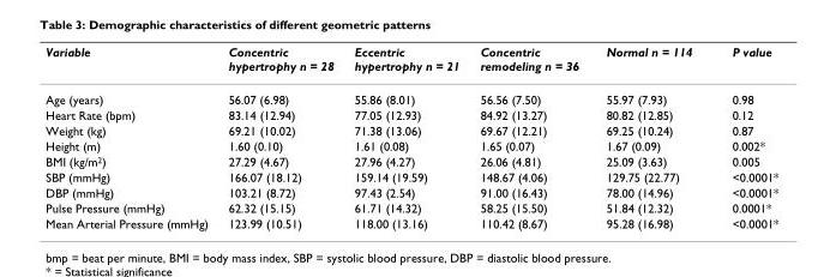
<table><thead><tr><td>Variable</td><td>Concentric hypertrophy n = 28</td><td>Eccentric hypertrophy n = 21</td><td>Concentric remodeling n = 36</td><td>Normal n = 114</td><td>P value</td></tr></thead><tbody><tr><td>Age (years)</td><td>56.07 (6.98)</td><td>55.86 (8.01)</td><td>56.56 (7.50)</td><td>55.97 (7.93)</td><td>0.98</td></tr><tr><td>Heart Rate (bpm)</td><td>83.14 (12.94)</td><td>77.05 (12.93)</td><td>84.92 (13.27)</td><td>80.82 (12.85)</td><td>0.12</td></tr><tr><td>Weight (kg)</td><td>69.21 (10.02)</td><td>71.38 (13.06)</td><td>69.67 (12.21)</td><td>69.25 (10.24)</td><td>0.87</td></tr><tr><td>Height (m)</td><td>1.60 (0.10)</td><td>1.61 (0.08)</td><td>1.65 (0.07)</td><td>1.67 (0.09)</td><td>0.002*</td></tr><tr><td>BMI (kg/m<sup>2</sup>)</td><td>27.29 (4.67)</td><td>27.96 (4.27)</td><td>26.06 (4.81)</td><td>25.09 (3.63)</td><td>0.005</td></tr><tr><td>SBP (mmHg)</td><td>166.07 (18.12)</td><td>159.14 (19.59)</td><td>148.67 (4.06)</td><td>129.75 (22.77)</td><td>&lt;0.0001*</td></tr><tr><td>DBP (mmHg)</td><td>103.21 (8.72)</td><td>97.43 (2.54)</td><td>91.00 (16.43)</td><td>78.00 (14.96)</td><td>&lt;0.0001*</td></tr><tr><td>Pulse Pressure (mmHg)</td><td>62.32 (15.15)</td><td>61.71 (14.32)</td><td>58.25 (15.50)</td><td>51.84 (12.32)</td><td>0.0001*</td></tr><tr><td>Mean Arterial Pressure (mmHg)</td><td>123.99 (10.51)</td><td>118.00 (13.16)</td><td>110.42 (8.67)</td><td>95.28 (16.98)</td><td>&lt;0.0001*</td></tr></tbody></table>